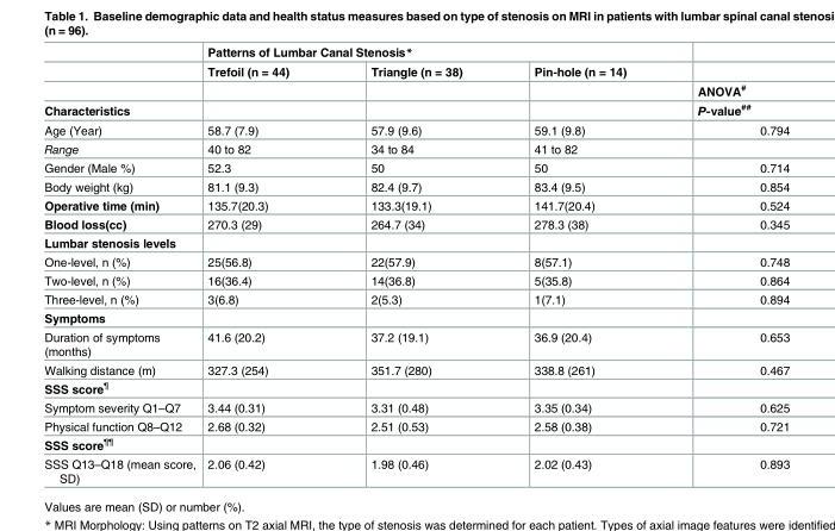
<table><thead><tr><td rowspan="4">Characteristics</td><td colspan="3">Patterns of Lumbar Canal Stenosis*</td><td rowspan="4">ANOVA<sup>#</sup> P-value<sup>##</sup></td></tr><tr><td rowspan="3">Trefoil (n = 44)</td><td rowspan="3">Triangle (n = 38)</td><td rowspan="3">Pin-hole (n = 14)</td></tr><tr></tr><tr></tr></thead><tbody><tr><td>Age (Year)</td><td>58.7 (7.9)</td><td>57.9 (9.6)</td><td>59.1 (9.8)</td><td>0.794</td></tr><tr><td>Range</td><td>40 to 82</td><td>34 to 84</td><td>41 to 82</td><td></td></tr><tr><td>Gender (Male %)</td><td>52.3</td><td>50</td><td>50</td><td>0.714</td></tr><tr><td>Body weight (kg)</td><td>81.1 (9.3)</td><td>82.4 (9.7)</td><td>83.4 (9.5)</td><td>0.854</td></tr><tr><td>Operative time (min)</td><td>135.7(20.3)</td><td>133.3(19.1)</td><td>141.7(20.4)</td><td>0.524</td></tr><tr><td>Blood loss(cc)</td><td>270.3 (29)</td><td>264.7 (34)</td><td>278.3 (38)</td><td>0.345</td></tr><tr><td colspan="5">Lumbar stenosis levels</td></tr><tr><td>One-level, n (%)</td><td>25(56.8)</td><td>22(57.9)</td><td>8(57.1)</td><td>0.748</td></tr><tr><td>Two-level, n (%)</td><td>16(36.4)</td><td>14(36.8)</td><td>5(35.8)</td><td>0.864</td></tr><tr><td>Three-level, n (%)</td><td>3(6.8)</td><td>2(5.3)</td><td>1(7.1)</td><td>0.894</td></tr><tr><td colspan="5">Symptoms</td></tr><tr><td>Duration of symptoms (months)</td><td>41.6 (20.2)</td><td>37.2 (19.1)</td><td>36.9 (20.4)</td><td>0.653</td></tr><tr><td>Walking distance (m)</td><td>327.3 (254)</td><td>351.7 (280)</td><td>338.8 (261)</td><td>0.467</td></tr><tr><td colspan="5">SSS score<sup>¶</sup></td></tr><tr><td>Symptom severity Q1–Q7</td><td>3.44 (0.31)</td><td>3.31 (0.48)</td><td>3.35 (0.34)</td><td>0.625</td></tr><tr><td>Physical function Q8–Q12</td><td>2.68 (0.32)</td><td>2.51 (0.53)</td><td>2.58 (0.38)</td><td>0.721</td></tr><tr><td colspan="5">SSS score<sup>¶¶</sup></td></tr><tr><td>SSS Q13–Q18 (mean score, SD)</td><td>2.06 (0.42)</td><td>1.98 (0.46)</td><td>2.02 (0.43)</td><td>0.893</td></tr></tbody></table>